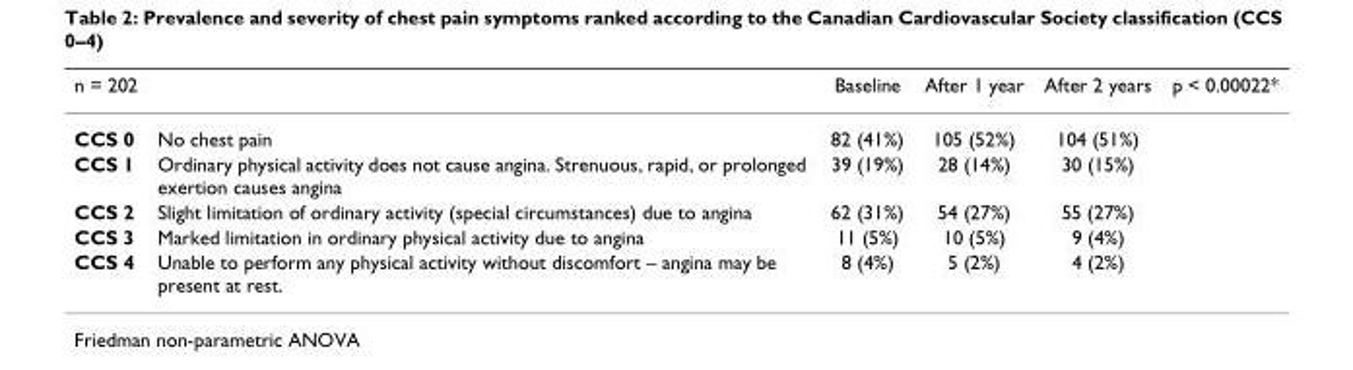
<table><thead><tr><td>n = 202</td><td></td><td>Baseline</td><td>After 1 year</td><td>After 2 years</td><td>p &lt; 0.00022*</td></tr></thead><tbody><tr><td>CCS 0</td><td>No chest pain</td><td>82 (41%)</td><td>105 (52%)</td><td>104 (51%)</td><td></td></tr><tr><td>CCS 1</td><td>Ordinary physical activity does not cause angina. Strenuous, rapid, or prolonged exertion causes angina</td><td>39 (19%)</td><td>28 (14%)</td><td>30 (15%)</td><td></td></tr><tr><td>CCS 2</td><td>Slight limitation of ordinary activity (special circumstances) due to angina</td><td>62 (31%)</td><td>54 (27%)</td><td>55 (27%)</td><td></td></tr><tr><td>CCS 3</td><td>Marked limitation in ordinary physical activity due to angina</td><td>11 (5%)</td><td>10 (5%)</td><td>9 (4%)</td><td></td></tr><tr><td>CCS 4</td><td>Unable to perform any physical activity without discomfort – angina may be present at rest.</td><td>8 (4%)</td><td>5 (2%)</td><td>4 (2%)</td><td></td></tr></tbody></table>